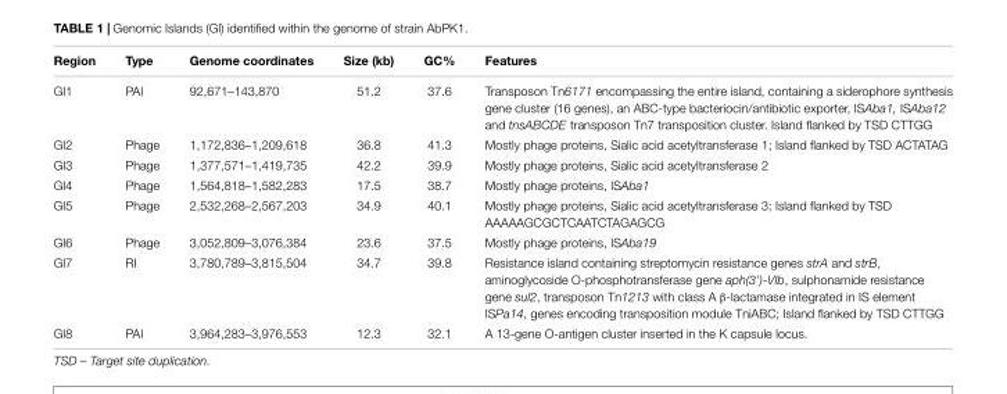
<table><thead><tr><td>Region</td><td>Type</td><td>Genome coordinates</td><td>Size (kb)</td><td>GC%</td><td>Features</td></tr></thead><tbody><tr><td>GI1</td><td>PAI</td><td>92,671–143,870</td><td>51.2</td><td>37.6</td><td>Transposon Tn6171 encompassing the entire island, containing a siderophore synthesis gene cluster (16 genes), an ABC-type bacteriocin/antibiotic exporter, ISAba1, ISAba12 and tnsABCDE transposon Tn7 transposition cluster. Island flanked by TSD CTTGG</td></tr><tr><td>GI2</td><td>Phage</td><td>1,172,836–1,209,618</td><td>36.8</td><td>41.3</td><td>Mostly phage proteins, Sialic acid acetyltransferase 1; Island flanked by TSD ACTATAG</td></tr><tr><td>GI3</td><td>Phage</td><td>1,377,571–1,419,735</td><td>42.2</td><td>39.9</td><td>Mostly phage proteins, Sialic acid acetyltransferase 2</td></tr><tr><td>GI4</td><td>Phage</td><td>1,564,818–1,582,283</td><td>17.5</td><td>38.7</td><td>Mostly phage proteins, ISAba1</td></tr><tr><td>GI5</td><td>Phage</td><td>2,532,268–2,567,203</td><td>34.9</td><td>40.1</td><td>Mostly phage proteins, Sialic acid acetyltransferase 3; Island flanked by TSD AAAAAGCGCTCAATCTAGAGCG</td></tr><tr><td>GI6</td><td>Phage</td><td>3,052,809–3,076,384</td><td>23.6</td><td>37.5</td><td>Mostly phage proteins, ISAba19</td></tr><tr><td>GI7</td><td>RI</td><td>3,780,789–3,815,504</td><td>34.7</td><td>39.8</td><td>Resistance island containing streptomycin resistance genes strA and strB, aminoglycoside O-phosphotransferase gene aph(3’)-VIb, sulphonamide resistance gene sul2, transposon Tn1213 with class A β-lactamase integrated in IS element ISPa14, genes encoding transposition module TniABC; Island flanked by TSD CTTGG</td></tr><tr><td>GI8</td><td>PAI</td><td>3,964,283–3,976,553</td><td>12.3</td><td>32.1</td><td>A 13-gene O-antigen cluster inserted in the K capsule locus.</td></tr></tbody></table>